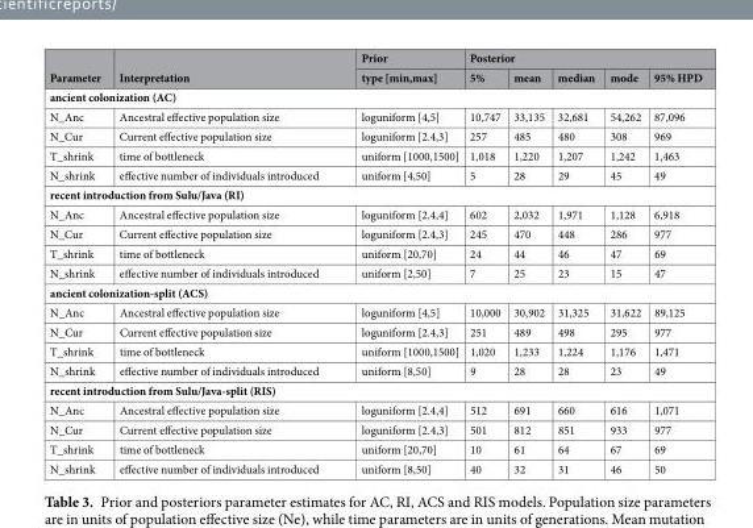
<table><thead><tr><td rowspan="2">Parameter</td><td rowspan="2">Interpretation</td><td rowspan="2">Prior type [min,max]</td><td colspan="5">Posterior</td></tr><tr><td>5%</td><td>mean</td><td>median</td><td>mode</td><td>95% HPD</td></tr></thead><tbody><tr><td colspan="8">ancient colonization (AC)</td></tr><tr><td>N_Anc</td><td>Ancestral effective population size</td><td>loguniform [4,5]</td><td>10,747</td><td>33,135</td><td>32,681</td><td>54,262</td><td>87,096</td></tr><tr><td>N_Cur</td><td>Current effective population size</td><td>loguniform [2.4,3]</td><td>257</td><td>485</td><td>480</td><td>308</td><td>969</td></tr><tr><td>T_shrink</td><td>time of bottleneck</td><td>uniform [1000,1500]</td><td>1,018</td><td>1,220</td><td>1,207</td><td>1,242</td><td>1,463</td></tr><tr><td>N_shrink</td><td>effective number of individuals introduced</td><td>uniform [4,50]</td><td>5</td><td>28</td><td>29</td><td>45</td><td>49</td></tr><tr><td colspan="8">recent introduction from Sulu/Java (RI)</td></tr><tr><td>N_Anc</td><td>Ancestral effective population size</td><td>loguniform [2.4,4]</td><td>602</td><td>2,032</td><td>1,971</td><td>1,128</td><td>6,918</td></tr><tr><td>N_Cur</td><td>Current effective population size</td><td>loguniform [2.4,3]</td><td>245</td><td>470</td><td>448</td><td>286</td><td>977</td></tr><tr><td>T_shrink</td><td>time of bottleneck</td><td>uniform [20,70]</td><td>24</td><td>44</td><td>46</td><td>47</td><td>69</td></tr><tr><td>N_shrink</td><td>effective number of individuals introduced</td><td>uniform [2,50]</td><td>7</td><td>25</td><td>23</td><td>15</td><td>47</td></tr><tr><td colspan="8">ancient colonization-split (ACS)</td></tr><tr><td>N_Anc</td><td>Ancestral effective population size</td><td>loguniform [4,5]</td><td>10,000</td><td>30,902</td><td>31,325</td><td>31,622</td><td>89,125</td></tr><tr><td>N_Cur</td><td>Current effective population size</td><td>loguniform [2.4,3]</td><td>251</td><td>489</td><td>498</td><td>295</td><td>977</td></tr><tr><td>T_shrink</td><td>time of bottleneck</td><td>uniform [1000,1500]</td><td>1,020</td><td>1,233</td><td>1,224</td><td>1,176</td><td>1,471</td></tr><tr><td>N_shrink</td><td>effective number of individuals introduced</td><td>uniform [8,50]</td><td>9</td><td>28</td><td>28</td><td>23</td><td>49</td></tr><tr><td colspan="8">recent introduction from Sulu/Java-split (RIS)</td></tr><tr><td>N_Anc</td><td>Ancestral effective population size</td><td>loguniform [2.4,4]</td><td>512</td><td>691</td><td>660</td><td>616</td><td>1,071</td></tr><tr><td>N_Cur</td><td>Current effective population size</td><td>loguniform [2.4,3]</td><td>501</td><td>812</td><td>851</td><td>933</td><td>977</td></tr><tr><td>T_shrink</td><td>time of bottleneck</td><td>uniform [20,70]</td><td>10</td><td>61</td><td>64</td><td>67</td><td>69</td></tr><tr><td>N_shrink</td><td>effective number of individuals introduced</td><td>uniform [8,50]</td><td>40</td><td>32</td><td>31</td><td>46</td><td>50</td></tr></tbody></table>